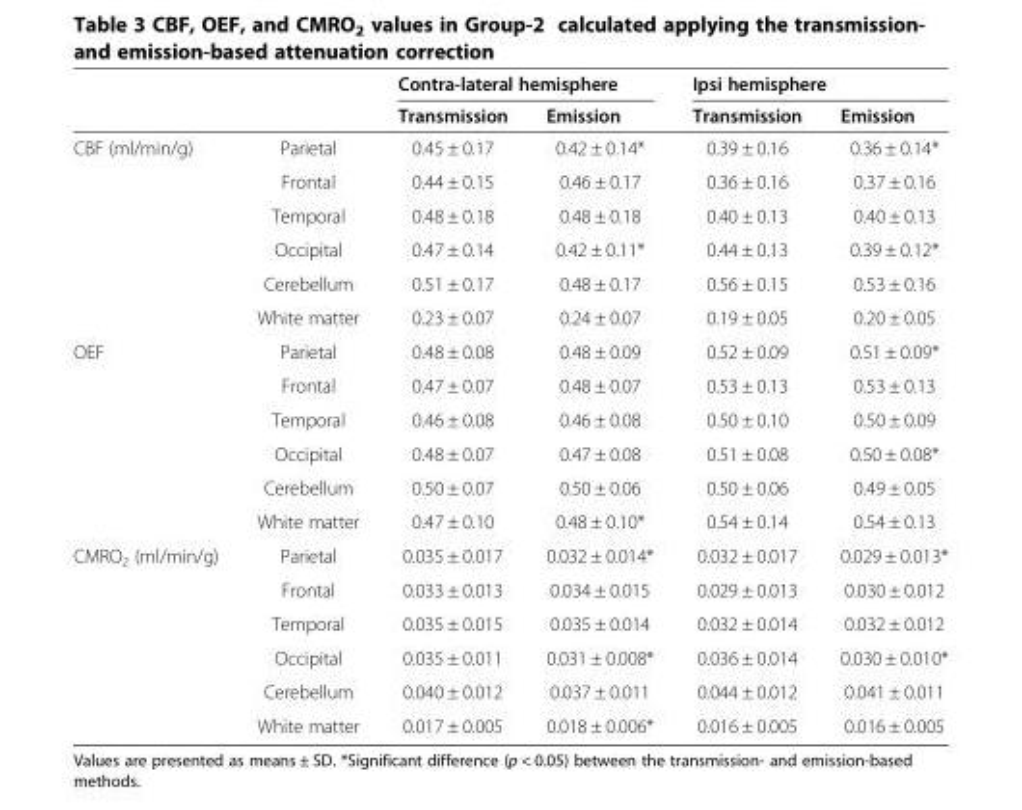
<table><thead><tr><td rowspan="2"></td><td rowspan="2"></td><td colspan="2">Contra-lateral hemisphere</td><td colspan="2">Ipsi hemisphere</td></tr><tr><td>Transmission</td><td>Emission</td><td>Transmission</td><td>Emission</td></tr></thead><tbody><tr><td rowspan="6">CBF (ml/min/g)</td><td>Parietal</td><td>0.45 ± 0.17</td><td>0.42 ± 0.14*</td><td>0.39 ± 0.16</td><td>0.36 ± 0.14*</td></tr><tr><td>Frontal</td><td>0.44 ± 0.15</td><td>0.46 ± 0.17</td><td>0.36 ± 0.16</td><td>0.37 ± 0.16</td></tr><tr><td>Temporal</td><td>0.48 ± 0.18</td><td>0.48 ± 0.18</td><td>0.40 ± 0.13</td><td>0.40 ± 0.13</td></tr><tr><td>Occipital</td><td>0.47 ± 0.14</td><td>0.42 ± 0.11*</td><td>0.44 ± 0.13</td><td>0.39 ± 0.12*</td></tr><tr><td>Cerebellum</td><td>0.51 ± 0.17</td><td>0.48 ± 0.17</td><td>0.56 ± 0.15</td><td>0.53 ± 0.16</td></tr><tr><td>White matter</td><td>0.23 ± 0.07</td><td>0.24 ± 0.07</td><td>0.19 ± 0.05</td><td>0.20 ± 0.05</td></tr><tr><td rowspan="6">OEF</td><td>Parietal</td><td>0.48 ± 0.08</td><td>0.48 ± 0.09</td><td>0.52 ± 0.09</td><td>0.51 ± 0.09*</td></tr><tr><td>Frontal</td><td>0.47 ± 0.07</td><td>0.48 ± 0.07</td><td>0.53 ± 0.13</td><td>0.53 ± 0.13</td></tr><tr><td>Temporal</td><td>0.46 ± 0.08</td><td>0.46 ± 0.08</td><td>0.50 ± 0.10</td><td>0.50 ± 0.09</td></tr><tr><td>Occipital</td><td>0.48 ± 0.07</td><td>0.47 ± 0.08</td><td>0.51 ± 0.08</td><td>0.50 ± 0.08*</td></tr><tr><td>Cerebellum</td><td>0.50 ± 0.07</td><td>0.50 ± 0.06</td><td>0.50 ± 0.06</td><td>0.49 ± 0.05</td></tr><tr><td>White matter</td><td>0.47 ± 0.10</td><td>0.48 ± 0.10*</td><td>0.54 ± 0.14</td><td>0.54 ± 0.13</td></tr><tr><td rowspan="6">CMRO<sub>2</sub> (ml/min/g)</td><td>Parietal</td><td>0.035 ± 0.017</td><td>0.032 ± 0.014*</td><td>0.032 ± 0.017</td><td>0.029 ± 0.013*</td></tr><tr><td>Frontal</td><td>0.033 ± 0.013</td><td>0.034 ± 0.015</td><td>0.029 ± 0.013</td><td>0.030 ± 0.012</td></tr><tr><td>Temporal</td><td>0.035 ± 0.015</td><td>0.035 ± 0.014</td><td>0.032 ± 0.014</td><td>0.032 ± 0.012</td></tr><tr><td>Occipital</td><td>0.035 ± 0.011</td><td>0.031 ± 0.008*</td><td>0.036 ± 0.014</td><td>0.030 ± 0.010*</td></tr><tr><td>Cerebellum</td><td>0.040 ± 0.012</td><td>0.037 ± 0.011</td><td>0.044 ± 0.012</td><td>0.041 ± 0.011</td></tr><tr><td>White matter</td><td>0.017 ± 0.005</td><td>0.018 ± 0.006*</td><td>0.016 ± 0.005</td><td>0.016 ± 0.005</td></tr></tbody></table>